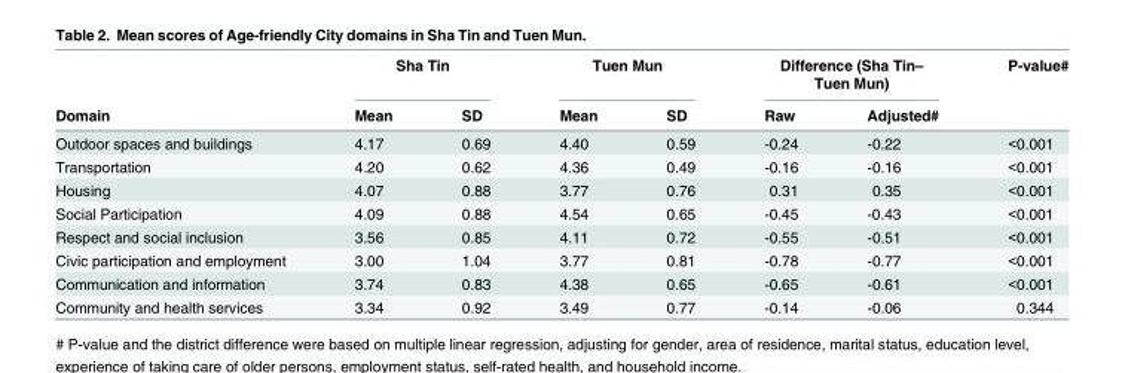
<table><thead><tr><td rowspan="2">Domain</td><td colspan="2">Sha Tin</td><td colspan="2">Tuen Mun</td><td colspan="2">Difference (Sha Tin– Tuen Mun)</td><td rowspan="2">P-value#</td></tr><tr><td>Mean</td><td>SD</td><td>Mean</td><td>SD</td><td>Raw</td><td>Adjusted#</td></tr></thead><tbody><tr><td>Outdoor spaces and buildings</td><td>4.17</td><td>0.69</td><td>4.40</td><td>0.59</td><td>-0.24</td><td>-0.22</td><td>&lt;0.001</td></tr><tr><td>Transportation</td><td>4.20</td><td>0.62</td><td>4.36</td><td>0.49</td><td>-0.16</td><td>-0.16</td><td>&lt;0.001</td></tr><tr><td>Housing</td><td>4.07</td><td>0.88</td><td>3.77</td><td>0.76</td><td>0.31</td><td>0.35</td><td>&lt;0.001</td></tr><tr><td>Social Participation</td><td>4.09</td><td>0.88</td><td>4.54</td><td>0.65</td><td>-0.45</td><td>-0.43</td><td>&lt;0.001</td></tr><tr><td>Respect and social inclusion</td><td>3.56</td><td>0.85</td><td>4.11</td><td>0.72</td><td>-0.55</td><td>-0.51</td><td>&lt;0.001</td></tr><tr><td>Civic participation and employment</td><td>3.00</td><td>1.04</td><td>3.77</td><td>0.81</td><td>-0.78</td><td>-0.77</td><td>&lt;0.001</td></tr><tr><td>Communication and information</td><td>3.74</td><td>0.83</td><td>4.38</td><td>0.65</td><td>-0.65</td><td>-0.61</td><td>&lt;0.001</td></tr><tr><td>Community and health services</td><td>3.34</td><td>0.92</td><td>3.49</td><td>0.77</td><td>-0.14</td><td>-0.06</td><td>0.344</td></tr></tbody></table>